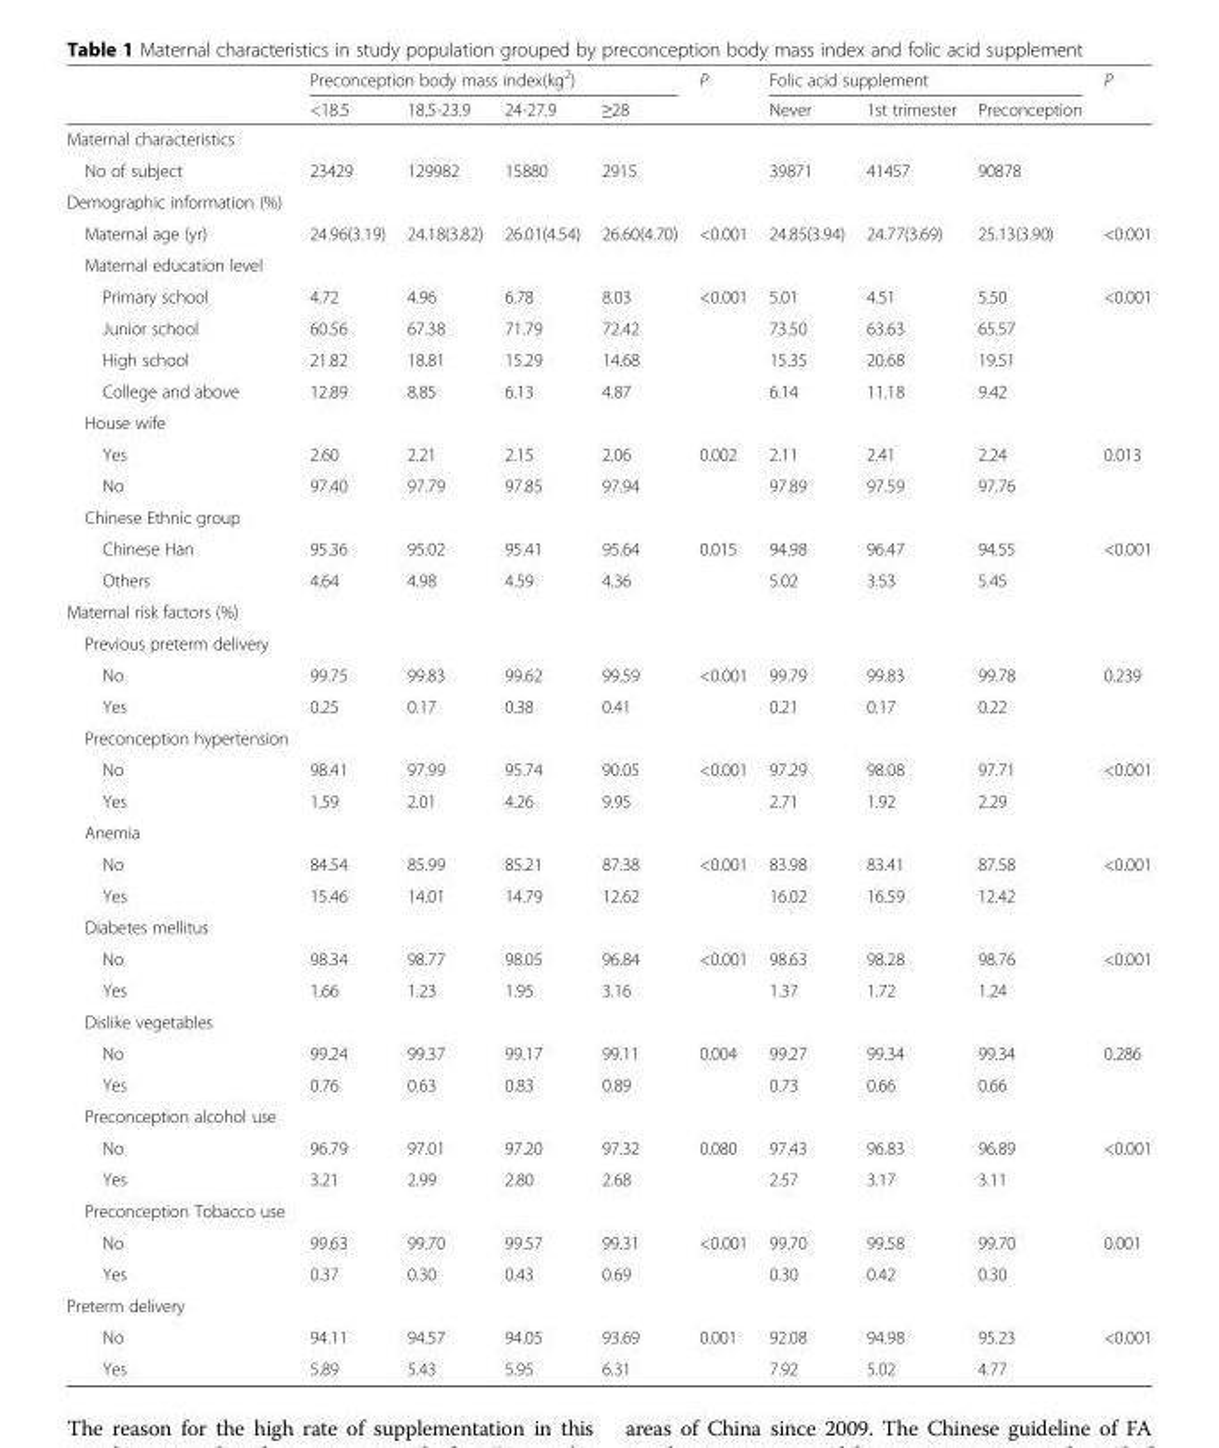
<table><thead><tr><td rowspan="2"></td><td colspan="4">Preconception body mass index(kg<sup>2</sup>)</td><td rowspan="2">P</td><td colspan="3">Folic acid supplement</td><td rowspan="2">P</td></tr><tr><td>&lt;18.5</td><td>18.5-23.9</td><td>24-27.9</td><td>≥28</td><td>Never</td><td>1st trimester</td><td>Preconception</td></tr></thead><tbody><tr><td colspan="10">Maternal characteristics</td></tr><tr><td>No of subject</td><td>23429</td><td>129982</td><td>15880</td><td>2915</td><td></td><td>39871</td><td>41457</td><td>90878</td><td></td></tr><tr><td colspan="10">Demographic information (%)</td></tr><tr><td>Maternal age (yr)</td><td>24.96(3.19)</td><td>24.18(3.82)</td><td>26.01(4.54)</td><td>26.60(4.70)</td><td>&lt;0.001</td><td>24.85(3.94)</td><td>24.77(3.69)</td><td>25.13(3.90)</td><td>&lt;0.001</td></tr><tr><td colspan="10">Maternal education level</td></tr><tr><td>Primary school</td><td>4.72</td><td>4.96</td><td>6.78</td><td>8.03</td><td rowspan="4">&lt;0.001</td><td>5.01</td><td>4.51</td><td>5.50</td><td rowspan="4">&lt;0.001</td></tr><tr><td>Junior school</td><td>60.56</td><td>67.38</td><td>71.79</td><td>72.42</td><td>73.50</td><td>63.63</td><td>65.57</td></tr><tr><td>High school</td><td>21.82</td><td>18.81</td><td>15.29</td><td>14.68</td><td>15.35</td><td>20.68</td><td>19.51</td></tr><tr><td>College and above</td><td>12.89</td><td>8.85</td><td>6.13</td><td>4.87</td><td>6.14</td><td>11.18</td><td>9.42</td></tr><tr><td colspan="10">House wife</td></tr><tr><td>Yes</td><td>2.60</td><td>2.21</td><td>2.15</td><td>2.06</td><td rowspan="2">0.002</td><td>2.11</td><td>2.41</td><td>2.24</td><td rowspan="2">0.013</td></tr><tr><td>No</td><td>97.40</td><td>97.79</td><td>97.85</td><td>97.94</td><td>97.89</td><td>97.59</td><td>97.76</td></tr><tr><td colspan="10">Chinese Ethnic group</td></tr><tr><td>Chinese Han</td><td>95.36</td><td>95.02</td><td>95.41</td><td>95.64</td><td rowspan="2">0.015</td><td>94.98</td><td>96.47</td><td>94.55</td><td rowspan="2">&lt;0.001</td></tr><tr><td>Others</td><td>4.64</td><td>4.98</td><td>4.59</td><td>4.36</td><td>5.02</td><td>3.53</td><td>5.45</td></tr><tr><td colspan="10">Maternal risk factors (%)</td></tr><tr><td colspan="10">Previous preterm delivery</td></tr><tr><td>No</td><td>99.75</td><td>99.83</td><td>99.62</td><td>99.59</td><td rowspan="2">&lt;0.001</td><td>99.79</td><td>99.83</td><td>99.78</td><td rowspan="2">0.239</td></tr><tr><td>Yes</td><td>0.25</td><td>0.17</td><td>0.38</td><td>0.41</td><td>0.21</td><td>0.17</td><td>0.22</td></tr><tr><td colspan="10">Preconception hypertension</td></tr><tr><td>No</td><td>98.41</td><td>97.99</td><td>95.74</td><td>90.05</td><td rowspan="2">&lt;0.001</td><td>97.29</td><td>98.08</td><td>97.71</td><td rowspan="2">&lt;0.001</td></tr><tr><td>Yes</td><td>1.59</td><td>2.01</td><td>4.26</td><td>9.95</td><td>2.71</td><td>1.92</td><td>2.29</td></tr><tr><td colspan="10">Anemia</td></tr><tr><td>No</td><td>84.54</td><td>85.99</td><td>85.21</td><td>87.38</td><td rowspan="2">&lt;0.001</td><td>83.98</td><td>83.41</td><td>87.58</td><td rowspan="2">&lt;0.001</td></tr><tr><td>Yes</td><td>15.46</td><td>14.01</td><td>14.79</td><td>12.62</td><td>16.02</td><td>16.59</td><td>12.42</td></tr><tr><td colspan="10">Diabetes mellitus</td></tr><tr><td>No</td><td>98.34</td><td>98.77</td><td>98.05</td><td>96.84</td><td rowspan="2">&lt;0.001</td><td>98.63</td><td>98.28</td><td>98.76</td><td rowspan="2">&lt;0.001</td></tr><tr><td>Yes</td><td>1.66</td><td>1.23</td><td>1.95</td><td>3.16</td><td>1.37</td><td>1.72</td><td>1.24</td></tr><tr><td colspan="10">Dislike vegetables</td></tr><tr><td>No</td><td>99.24</td><td>99.37</td><td>99.17</td><td>99.11</td><td rowspan="2">0.004</td><td>99.27</td><td>99.34</td><td>99.34</td><td rowspan="2">0.286</td></tr><tr><td>Yes</td><td>0.76</td><td>0.63</td><td>0.83</td><td>0.89</td><td>0.73</td><td>0.66</td><td>0.66</td></tr><tr><td colspan="10">Preconception alcohol use</td></tr><tr><td>No</td><td>96.79</td><td>97.01</td><td>97.20</td><td>97.32</td><td rowspan="2">0.080</td><td>97.43</td><td>96.83</td><td>96.89</td><td rowspan="2">&lt;0.001</td></tr><tr><td>Yes</td><td>3.21</td><td>2.99</td><td>2.80</td><td>2.68</td><td>2.57</td><td>3.17</td><td>3.11</td></tr><tr><td colspan="10">Preconception Tobacco use</td></tr><tr><td>No</td><td>99.63</td><td>99.70</td><td>99.57</td><td>99.31</td><td rowspan="2">&lt;0.001</td><td>99.70</td><td>99.58</td><td>99.70</td><td rowspan="2">0.001</td></tr><tr><td>Yes</td><td>0.37</td><td>0.30</td><td>0.43</td><td>0.69</td><td>0.30</td><td>0.42</td><td>0.30</td></tr><tr><td colspan="10">Preterm delivery</td></tr><tr><td>No</td><td>94.11</td><td>94.57</td><td>94.05</td><td>93.69</td><td rowspan="2">0.001</td><td>92.08</td><td>94.98</td><td>95.23</td><td rowspan="2">&lt;0.001</td></tr><tr><td>Yes</td><td>5.89</td><td>5.43</td><td>5.95</td><td>6.31</td><td>7.92</td><td>5.02</td><td>4.77</td></tr></tbody></table>